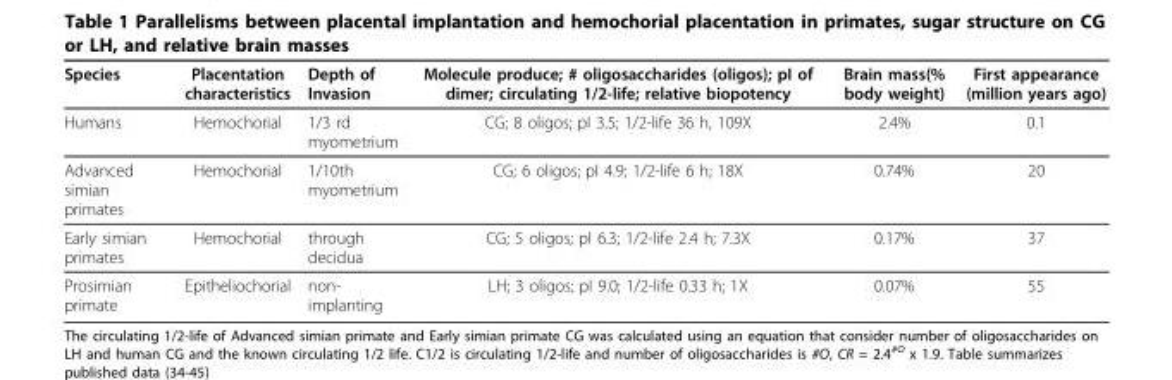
<table><thead><tr><td>Species</td><td>Placentation characteristics</td><td>Depth of Invasion</td><td>Molecule produce; # oligosaccharides (oligos); pI of dimer; circulating 1/2-life; relative biopotency</td><td>Brain mass(% body weight)</td><td>First appearance (million years ago)</td></tr></thead><tbody><tr><td>Humans</td><td>Hemochorial</td><td>1/3 rd myometrium</td><td>CG; 8 oligos; pI 3.5; 1/2-life 36 h, 109X</td><td>2.4%</td><td>0.1</td></tr><tr><td>Advanced simian primates</td><td>Hemochorial</td><td>1/10th myometrium</td><td>CG; 6 oligos; pI 4.9; 1/2-life 6 h; 18X</td><td>0.74%</td><td>20</td></tr><tr><td>Early simian primates</td><td>Hemochorial</td><td>through decidua</td><td>CG; 5 oligos; pI 6.3; 1/2-life 2.4 h; 7.3X</td><td>0.17%</td><td>37</td></tr><tr><td>Prosimian primate</td><td>Epitheliochorial</td><td>non- implanting</td><td>LH; 3 oligos; pI 9.0; 1/2-life 0.33 h; 1X</td><td>0.07%</td><td>55</td></tr></tbody></table>